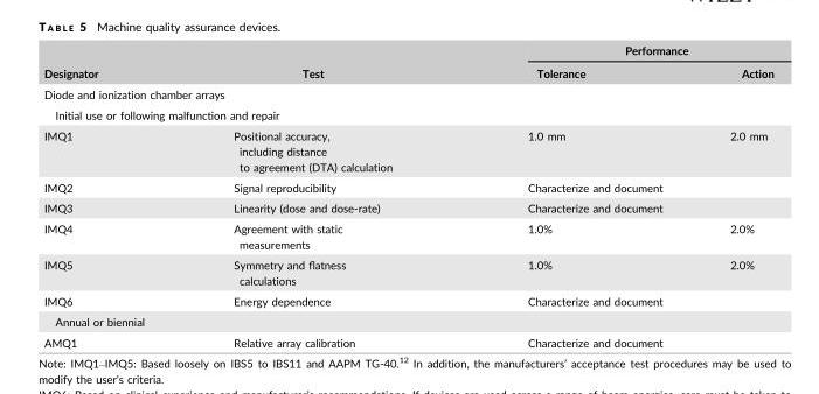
<table><thead><tr><td rowspan="2">Designator</td><td rowspan="2">Test</td><td colspan="2">Performance</td></tr><tr><td>Tolerance</td><td>Action</td></tr></thead><tbody><tr><td colspan="4">Diode and ionization chamber arrays</td></tr><tr><td colspan="4">Initial use or following malfunction and repair</td></tr><tr><td>IMQ1</td><td>Positional accuracy, including distance to agreement (DTA) calculation</td><td>1.0 mm</td><td>2.0 mm</td></tr><tr><td>IMQ2</td><td>Signal reproducibility</td><td colspan="2">Characterize and document</td></tr><tr><td>IMQ3</td><td>Linearity (dose and dose-rate)</td><td colspan="2">Characterize and document</td></tr><tr><td>IMQ4</td><td>Agreement with static measurements</td><td>1.0%</td><td>2.0%</td></tr><tr><td>IMQ5</td><td>Symmetry and flatness calculations</td><td>1.0%</td><td>2.0%</td></tr><tr><td>IMQ6</td><td>Energy dependence</td><td colspan="2">Characterize and document</td></tr><tr><td colspan="4">Annual or biennial</td></tr><tr><td>AMQ1</td><td>Relative array calibration</td><td colspan="2">Characterize and document</td></tr></tbody></table>